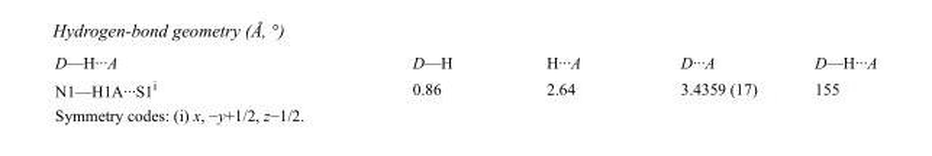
<table><tbody><tr><td>D—H···A</td><td>D—H</td><td>H···A</td><td>D···A</td><td>D—H···A</td></tr><tr><td>N1—H1A···S1<sup>i</sup></td><td>0.86</td><td>2.64</td><td>3.4359 (17)</td><td>155</td></tr></tbody></table>